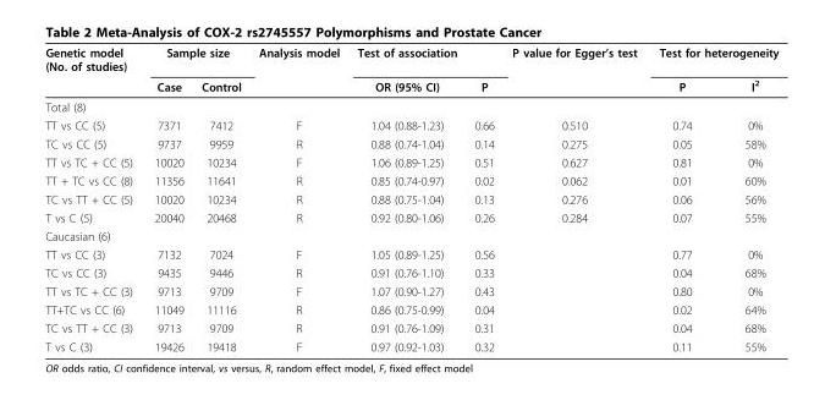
<table><thead><tr><td rowspan="2">Genetic model (No. of studies)</td><td colspan="2">Sample size</td><td rowspan="2">Analysis model</td><td rowspan="2">Test of association OR (95% CI)</td><td rowspan="2">P</td><td rowspan="2">P value for Egger’s test</td><td colspan="2">Test for heterogeneity</td></tr><tr><td>Case</td><td>Control</td><td>P</td><td>I<sup>2</sup></td></tr></thead><tbody><tr><td colspan="9">Total (8)</td></tr><tr><td>TT vs CC (5)</td><td>7371</td><td>7412</td><td>F</td><td>1.04 (0.88-1.23)</td><td>0.66</td><td>0.510</td><td>0.74</td><td>0%</td></tr><tr><td>TC vs CC (5)</td><td>9737</td><td>9959</td><td>R</td><td>0.88 (0.74-1.04)</td><td>0.14</td><td>0.275</td><td>0.05</td><td>58%</td></tr><tr><td>TT vs TC + CC (5)</td><td>10020</td><td>10234</td><td>F</td><td>1.06 (0.89-1.25)</td><td>0.51</td><td>0.627</td><td>0.81</td><td>0%</td></tr><tr><td>TT + TC vs CC (8)</td><td>11356</td><td>11641</td><td>R</td><td>0.85 (0.74-0.97)</td><td>0.02</td><td>0.062</td><td>0.01</td><td>60%</td></tr><tr><td>TC vs TT + CC (5)</td><td>10020</td><td>10234</td><td>R</td><td>0.88 (0.75-1.04)</td><td>0.13</td><td>0.276</td><td>0.06</td><td>56%</td></tr><tr><td>T vs C (5)</td><td>20040</td><td>20468</td><td>R</td><td>0.92 (0.80-1.06)</td><td>0.26</td><td>0.284</td><td>0.07</td><td>55%</td></tr><tr><td colspan="9">Caucasian (6)</td></tr><tr><td>TT vs CC (3)</td><td>7132</td><td>7024</td><td>F</td><td>1.05 (0.89-1.25)</td><td>0.56</td><td></td><td>0.77</td><td>0%</td></tr><tr><td>TC vs CC (3)</td><td>9435</td><td>9446</td><td>R</td><td>0.91 (0.76-1.10)</td><td>0.33</td><td></td><td>0.04</td><td>68%</td></tr><tr><td>TT vs TC + CC (3)</td><td>9713</td><td>9709</td><td>F</td><td>1.07 (0.90-1.27)</td><td>0.43</td><td></td><td>0.80</td><td>0%</td></tr><tr><td>TT+TC vs CC (6)</td><td>11049</td><td>11116</td><td>R</td><td>0.86 (0.75-0.99)</td><td>0.04</td><td></td><td>0.02</td><td>64%</td></tr><tr><td>TC vs TT + CC (3)</td><td>9713</td><td>9709</td><td>R</td><td>0.91 (0.76-1.09)</td><td>0.31</td><td></td><td>0.04</td><td>68%</td></tr><tr><td>T vs C (3)</td><td>19426</td><td>19418</td><td>F</td><td>0.97 (0.92-1.03)</td><td>0.32</td><td></td><td>0.11</td><td>55%</td></tr></tbody></table>